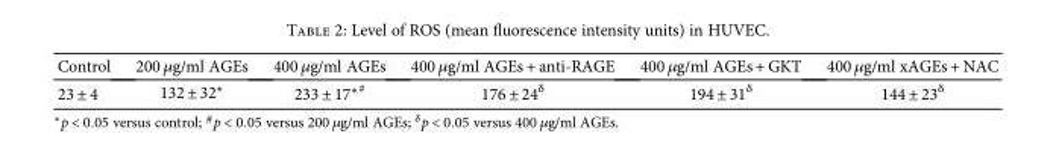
<table><thead><tr><td>Control</td><td>200 μg/ml AGEs</td><td>400 μg/ml AGEs</td><td>400 μg/ml AGEs + anti-RAGE</td><td>400 μg/ml AGEs + GKT</td><td>400 μg/ml xAGEs + NAC</td></tr></thead><tbody><tr><td>23 ± 4</td><td>132 ± 32∗</td><td>233 ± 17<sup>∗#</sup></td><td>176 ± 24<sup>δ</sup></td><td>194 ± 31<sup>δ</sup></td><td>144 ± 23<sup>δ</sup></td></tr></tbody></table>